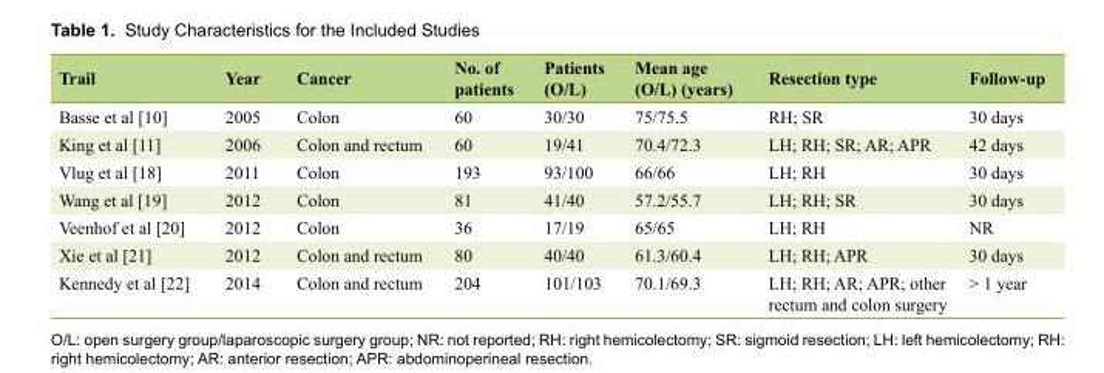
<table><thead><tr><td>Trail</td><td>Year</td><td>Cancer</td><td>No. of patients</td><td>Patients (O/L)</td><td>Mean age (O/L) (years)</td><td>Resection type</td><td>Follow-up</td></tr></thead><tbody><tr><td>Basse et al [10]</td><td>2005</td><td>Colon</td><td>60</td><td>30/30</td><td>75/75.5</td><td>RH; SR</td><td>30 days</td></tr><tr><td>King et al [11]</td><td>2006</td><td>Colon and rectum</td><td>60</td><td>19/41</td><td>70.4/72.3</td><td>LH; RH; SR; AR; APR</td><td>42 days</td></tr><tr><td>Vlug et al [18]</td><td>2011</td><td>Colon</td><td>193</td><td>93/100</td><td>66/66</td><td>LH; RH</td><td>30 days</td></tr><tr><td>Wang et al [19]</td><td>2012</td><td>Colon</td><td>81</td><td>41/40</td><td>57.2/55.7</td><td>LH; RH; SR</td><td>30 days</td></tr><tr><td>Veenhof et al [20]</td><td>2012</td><td>Colon</td><td>36</td><td>17/19</td><td>65/65</td><td>LH; RH</td><td>NR</td></tr><tr><td>Xie et al [21]</td><td>2012</td><td>Colon and rectum</td><td>80</td><td>40/40</td><td>61.3/60.4</td><td>LH; RH; APR</td><td>30 days</td></tr><tr><td>Kennedy et al [22]</td><td>2014</td><td>Colon and rectum</td><td>204</td><td>101/103</td><td>70.1/69.3</td><td>LH; RH; AR; APR; other rectum and colon surgery</td><td>&gt; 1 year</td></tr></tbody></table>